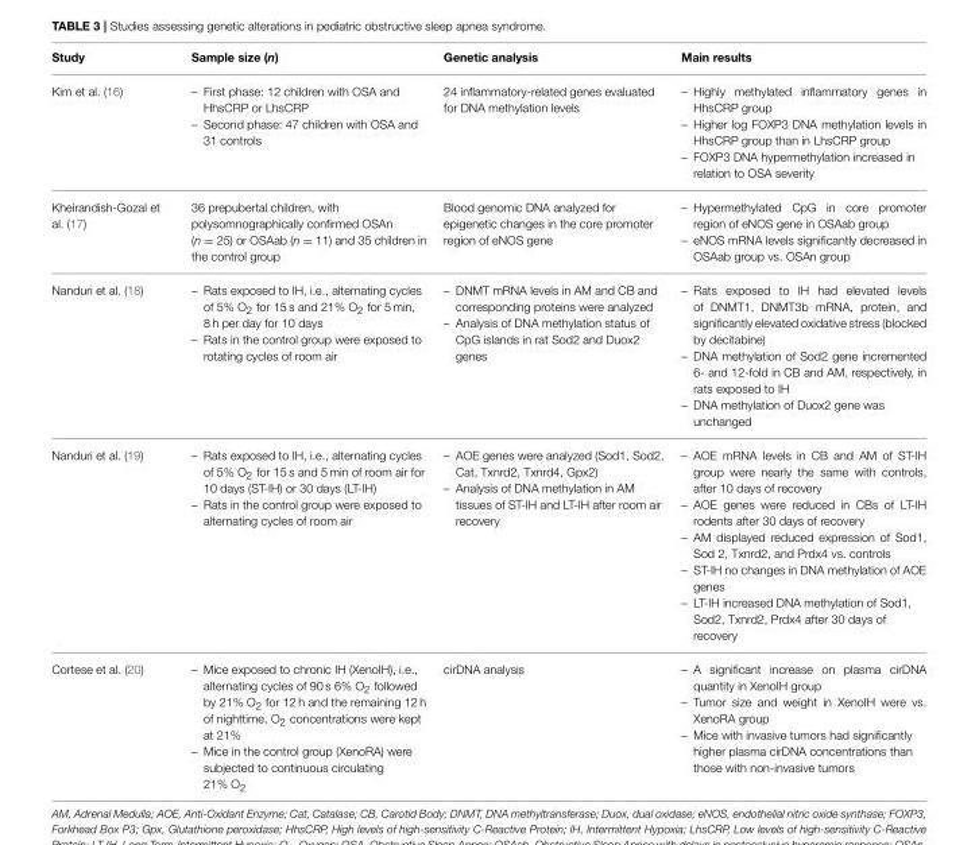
<table><thead><tr><td>Study</td><td>Sample size (n)</td><td>Genetic analysis</td><td>Main results</td></tr></thead><tbody><tr><td>Kim et al. (16)</td><td>– First phase: 12 children with OSA and HhsCRP or LhsCRP – Second phase: 47 children with OSA and 31 controls</td><td>24 inflammatory-related genes evaluated for DNA methylation levels</td><td>– Highly methylated inflammatory genes in HhsCRP group – Higher log FOXP3 DNA methylation levels in HhsCRP group than in LhsCRP group – FOXP3 DNA hypermethylation increased in relation to OSA severity</td></tr><tr><td>Kheirandish-Gozal et al. (17)</td><td>36 prepubertal children, with polysomnographically confirmed OSAn (n = 25) or OSAab (n = 11) and 35 children in the control group</td><td>Blood genomic DNA analyzed for epigenetic changes in the core promoter region of eNOS gene</td><td>– Hypermethylated CpG in core promoter region of eNOS gene in OSAab group – eNOS mRNA levels significantly decreased in OSAab group vs. OSAn group</td></tr><tr><td>Nanduri et al. (18)</td><td>– Rats exposed to IH, i.e., alternating cycles of 5% O<sub>2</sub> for 15 s and 21% O<sub>2</sub> for 5 min, 8 h per day for 10 days – Rats in the control group were exposed to rotating cycles of room air</td><td>– DNMT mRNA levels in AM and CB and corresponding proteins were analyzed – Analysis of DNA methylation status of CpG islands in rat Sod2 and Duox2 genes</td><td>– Rats exposed to IH had elevated levels of DNMT1, DNMT3b mRNA, protein, and significantly elevated oxidative stress (blocked by decitabine) – DNA methylation of Sod2 gene incremented 6- and 12-fold in CB and AM, respectively, in rats exposed to IH – DNA methylation of Duox2 gene was unchanged</td></tr><tr><td>Nanduri et al. (19)</td><td>– Rats exposed to IH, i.e., alternating cycles of 5% O<sub>2</sub> for 15 s and 5 min of room air for 10 days (ST-IH) or 30 days (LT-IH) – Rats in the control group were exposed to alternating cycles of room air</td><td>– AOE genes were analyzed (Sod1, Sod2, Cat, Txnrd2, Txnrd4, Gpx2) – Analysis of DNA methylation in AM tissues of ST-IH and LT-IH after room air recovery</td><td>– AOE mRNA levels in CB and AM of ST-IH group were nearly the same with controls, after 10 days of recovery – AOE genes were reduced in CBs of LT-IH rodents after 30 days of recovery – AM displayed reduced expression of Sod1, Sod 2, Txnrd2, and Prdx4 vs. controls – ST-IH no changes in DNA methylation of AOE genes – LT-IH increased DNA methylation of Sod1, Sod2, Txnrd2, Prdx4 after 30 days of recovery</td></tr><tr><td>Cortese et al. (20)</td><td>– Mice exposed to chronic IH (XenoIH), i.e., alternating cycles of 90 s 6% O<sub>2</sub> followed by 21% O<sub>2</sub> for 12 h and the remaining 12 h of nighttime, O<sub>2</sub> concentrations were kept at 21% – Mice in the control group (XenoRA) were subjected to continuous circulating 21% O<sub>2</sub></td><td>cirDNA analysis</td><td>– A significant increase on plasma cirDNA quantity in XenoIH group – Tumor size and weight in XenoIH were vs. XenoRA group – Mice with invasive tumors had significantly higher plasma cirDNA concentrations than those with non-invasive tumors</td></tr></tbody></table>